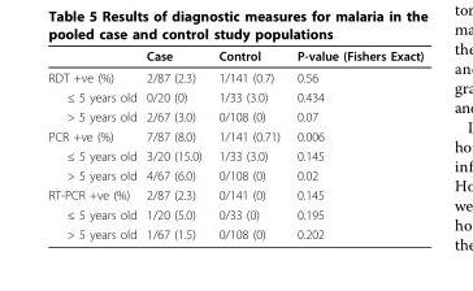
<table><thead><tr><td></td><td>Case</td><td>Control</td><td>P-value (Fishers Exact)</td></tr></thead><tbody><tr><td>RDT +ve (%)</td><td>2/87 (2.3)</td><td>1/141 (0.7)</td><td>0.56</td></tr><tr><td>≤ 5 years old</td><td>0/20 (0)</td><td>1/33 (3.0)</td><td>0.434</td></tr><tr><td>&gt; 5 years old</td><td>2/67 (3.0)</td><td>0/108 (0)</td><td>0.07</td></tr><tr><td>PCR +ve (%)</td><td>7/87 (8.0)</td><td>1/141 (0.71)</td><td>0.006</td></tr><tr><td>≤ 5 years old</td><td>3/20 (15.0)</td><td>1/33 (3.0)</td><td>0.145</td></tr><tr><td>&gt; 5 years old</td><td>4/67 (6.0)</td><td>0/108 (0)</td><td>0.02</td></tr><tr><td>RT-PCR +ve (%)</td><td>2/87 (2.3)</td><td>0/141 (0)</td><td>0.145</td></tr><tr><td>≤ 5 years old</td><td>1/20 (5.0)</td><td>0/33 (0)</td><td>0.195</td></tr><tr><td>&gt; 5 years old</td><td>1/67 (1.5)</td><td>0/108 (0)</td><td>0.202</td></tr></tbody></table>